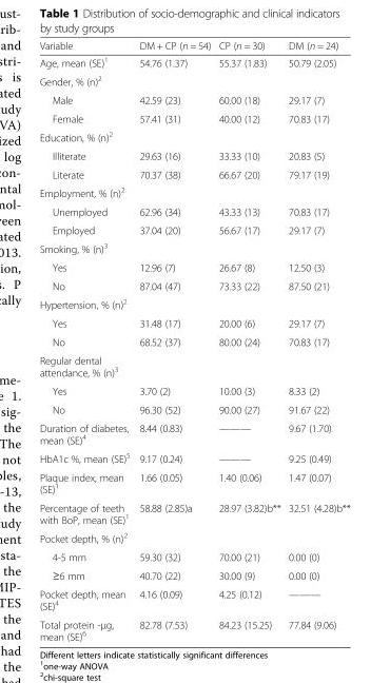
<table><thead><tr><td>Variable</td><td>DM + CP (n = 54)</td><td>CP (n = 30)</td><td>DM (n = 24)</td></tr></thead><tbody><tr><td>Age, mean (SE)<sup>1</sup></td><td>54.76 (1.37)</td><td>55.37 (1.83)</td><td>50.79 (2.05)</td></tr><tr><td colspan="4">Gender, % (n)<sup>2</sup></td></tr><tr><td>Male</td><td>42.59 (23)</td><td>60.00 (18)</td><td>29.17 (7)</td></tr><tr><td>Female</td><td>57.41 (31)</td><td>40.00 (12)</td><td>70.83 (17)</td></tr><tr><td colspan="4">Education, % (n)<sup>2</sup></td></tr><tr><td>Illiterate</td><td>29.63 (16)</td><td>33.33 (10)</td><td>20.83 (5)</td></tr><tr><td>Literate</td><td>70.37 (38)</td><td>66.67 (20)</td><td>79.17 (19)</td></tr><tr><td colspan="4">Employment, % (n)<sup>2</sup></td></tr><tr><td>Unemployed</td><td>62.96 (34)</td><td>43.33 (13)</td><td>70.83 (17)</td></tr><tr><td>Employed</td><td>37.04 (20)</td><td>56.67 (17)</td><td>29.17 (7)</td></tr><tr><td colspan="4">Smoking, % (n)<sup>3</sup></td></tr><tr><td>Yes</td><td>12.96 (7)</td><td>26.67 (8)</td><td>12.50 (3)</td></tr><tr><td>No</td><td>87.04 (47)</td><td>73.33 (22)</td><td>87.50 (21)</td></tr><tr><td colspan="4">Hypertension, % (n)<sup>2</sup></td></tr><tr><td>Yes</td><td>31.48 (17)</td><td>20.00 (6)</td><td>29.17 (7)</td></tr><tr><td>No</td><td>68.52 (37)</td><td>80.00 (24)</td><td>70.83 (17)</td></tr><tr><td colspan="4">Regular dental attendance, % (n)<sup>3</sup></td></tr><tr><td>Yes</td><td>3.70 (2)</td><td>10.00 (3)</td><td>8.33 (2)</td></tr><tr><td>No</td><td>96.30 (52)</td><td>90.00 (27)</td><td>91.67 (22)</td></tr><tr><td>Duration of diabetes, mean (SE)<sup>4</sup></td><td>8.44 (0.83)</td><td>———</td><td>9.67 (1.70)</td></tr><tr><td>HbA1c %, mean (SE)<sup>5</sup></td><td>9.17 (0.24)</td><td>———</td><td>9.25 (0.49)</td></tr><tr><td>Plaque index, mean (SE)<sup>1</sup></td><td>1.66 (0.05)</td><td>1.40 (0.06)</td><td>1.47 (0.07)</td></tr><tr><td>Percentage of teeth with BoP, mean (SE)<sup>1</sup></td><td>58.88 (2.85)a</td><td>28.97 (3.82)b**</td><td>32.51 (4.28)b**</td></tr><tr><td colspan="4">Pocket depth, % (n)<sup>2</sup></td></tr><tr><td>4-5 mm</td><td>59.30 (32)</td><td>70.00 (21)</td><td>0.00 (0)</td></tr><tr><td>≥6 mm</td><td>40.70 (22)</td><td>30.00 (9)</td><td>0.00 (0)</td></tr><tr><td>Pocket depth, mean (SE)<sup>4</sup></td><td>4.16 (0.09)</td><td>4.25 (0.12)</td><td>———</td></tr><tr><td>Total protein -μg, mean (SE)<sup>6</sup></td><td>82.78 (7.53)</td><td>84.23 (15.25)</td><td>77.84 (9.06)</td></tr></tbody></table>